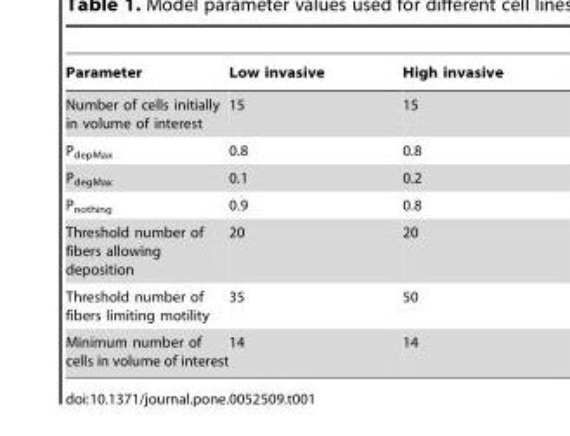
<table><thead><tr><td>Parameter</td><td>Low invasive</td><td>High invasive</td></tr></thead><tbody><tr><td>Number of cells initially in volume of interest</td><td>15</td><td>15</td></tr><tr><td>P<sub>depMax</sub></td><td>0.8</td><td>0.8</td></tr><tr><td>P<sub>degMax</sub></td><td>0.1</td><td>0.2</td></tr><tr><td>P<sub>nothing</sub></td><td>0.9</td><td>0.8</td></tr><tr><td>Threshold number of fibers allowing deposition</td><td>20</td><td>20</td></tr><tr><td>Threshold number of fibers limiting motility</td><td>35</td><td>50</td></tr><tr><td>Minimum number of cells in volume of interest</td><td>14</td><td>14</td></tr></tbody></table>